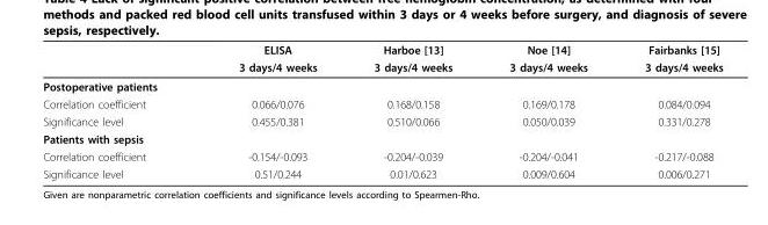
<table><thead><tr><td rowspan="2"></td><td rowspan="2">ELISA 3 days/4 weeks</td><td rowspan="2">Harboe [13] 3 days/4 weeks</td><td rowspan="2">Noe [14] 3 days/4 weeks</td><td rowspan="2">Fairbanks [15] 3 days/4 weeks</td></tr><tr></tr></thead><tbody><tr><td colspan="5">Postoperative patients</td></tr><tr><td>Correlation coefficient</td><td>0.066/0.076</td><td>0.168/0.158</td><td>0.169/0.178</td><td>0.084/0.094</td></tr><tr><td>Significance level</td><td>0.455/0.381</td><td>0.510/0.066</td><td>0.050/0.039</td><td>0.331/0.278</td></tr><tr><td colspan="5">Patients with sepsis</td></tr><tr><td>Correlation coefficient</td><td>-0.154/-0.093</td><td>-0.204/-0.039</td><td>-0.204/-0.041</td><td>-0.217/-0.088</td></tr><tr><td>Significance level</td><td>0.51/0.244</td><td>0.01/0.623</td><td>0.009/0.604</td><td>0.006/0.271</td></tr></tbody></table>